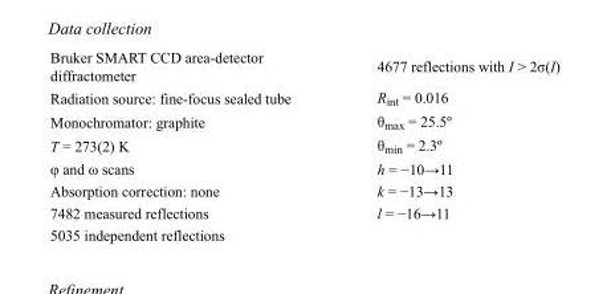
<table><tbody><tr><td>Bruker SMART CCD area-detector diffractometer</td><td>4677 reflections with I &gt; 2σ(I)</td></tr><tr><td>Radiation source: fine-focus sealed tube</td><td>R<sub>int</sub> = 0.016</td></tr><tr><td>Monochromator: graphite</td><td>θ<sub>max</sub> = 25.5º</td></tr><tr><td>T = 273(2) K</td><td>θ<sub>min</sub> = 2.3º</td></tr><tr><td>φ and ω scans</td><td>h = −10→11</td></tr><tr><td>Absorption correction: none</td><td>k = −13→13</td></tr><tr><td>7482 measured reflections</td><td>l = −16→11</td></tr><tr><td>5035 independent reflections</td><td></td></tr></tbody></table>